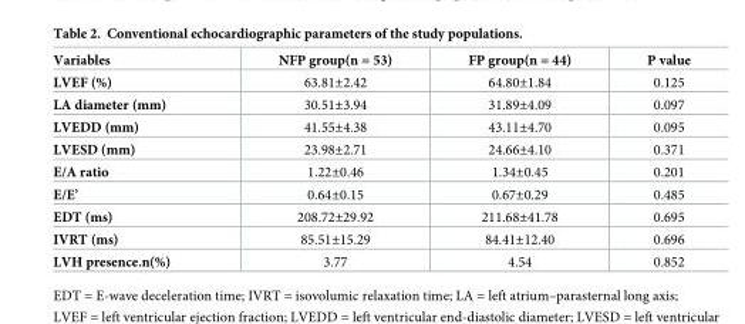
<table><thead><tr><td>Variables</td><td>NFP group(n = 53)</td><td>FP group(n = 44)</td><td>P value</td></tr></thead><tbody><tr><td>LVEF (%)</td><td>63.81±2.42</td><td>64.80±1.84</td><td>0.125</td></tr><tr><td>LA diameter (mm)</td><td>30.51±3.94</td><td>31.89±4.09</td><td>0.097</td></tr><tr><td>LVEDD (mm)</td><td>41.55±4.38</td><td>43.11±4.70</td><td>0.095</td></tr><tr><td>LVESD (mm)</td><td>23.98±2.71</td><td>24.66±4.10</td><td>0.371</td></tr><tr><td>E/A ratio</td><td>1.22±0.46</td><td>1.34±0.45</td><td>0.201</td></tr><tr><td>E/E’</td><td>0.64±0.15</td><td>0.67±0.29</td><td>0.485</td></tr><tr><td>EDT (ms)</td><td>208.72±29.92</td><td>211.68±41.78</td><td>0.695</td></tr><tr><td>IVRT (ms)</td><td>85.51±15.29</td><td>84.41±12.40</td><td>0.696</td></tr><tr><td>LVH presence.n(%)</td><td>3.77</td><td>4.54</td><td>0.852</td></tr></tbody></table>